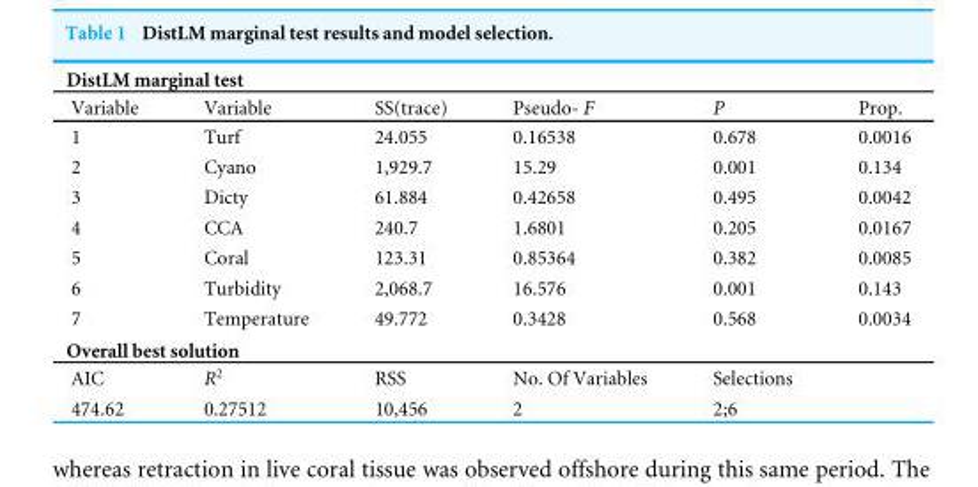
<table><tbody><tr><td colspan="6">DistLM marginal test</td></tr><tr><td>Variable</td><td>Variable</td><td>SS(trace)</td><td>Pseudo- F</td><td>P</td><td>Prop.</td></tr><tr><td>1</td><td>Turf</td><td>24.055</td><td>0.16538</td><td>0.678</td><td>0.0016</td></tr><tr><td>2</td><td>Cyano</td><td>1,929.7</td><td>15.29</td><td>0.001</td><td>0.134</td></tr><tr><td>3</td><td>Dicty</td><td>61.884</td><td>0.42658</td><td>0.495</td><td>0.0042</td></tr><tr><td>4</td><td>CCA</td><td>240.7</td><td>1.6801</td><td>0.205</td><td>0.0167</td></tr><tr><td>5</td><td>Coral</td><td>123.31</td><td>0.85364</td><td>0.382</td><td>0.0085</td></tr><tr><td>6</td><td>Turbidity</td><td>2,068.7</td><td>16.576</td><td>0.001</td><td>0.143</td></tr><tr><td>7</td><td>Temperature</td><td>49.772</td><td>0.3428</td><td>0.568</td><td>0.0034</td></tr><tr><td colspan="6">Overall best solution</td></tr><tr><td>AIC</td><td>R<sup>2</sup></td><td>RSS</td><td>No. Of Variables</td><td>Selections</td><td></td></tr><tr><td>474.62</td><td>0.27512</td><td>10,456</td><td>2</td><td>2;6</td><td></td></tr></tbody></table>